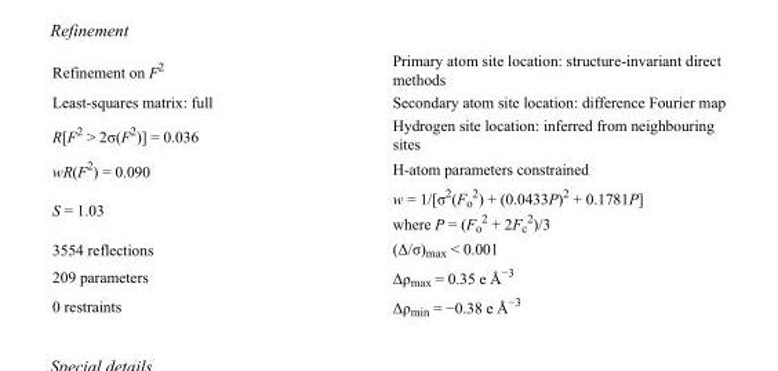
<table><tbody><tr><td>Refinement on F<sup>2</sup></td><td>Primary atom site location: structure-invariant direct methods</td></tr><tr><td>Least-squares matrix: full</td><td>Secondary atom site location: difference Fourier map</td></tr><tr><td>R[F<sup>2</sup> &gt; 2σ(F<sup>2</sup>)] = 0.036</td><td>Hydrogen site location: inferred from neighbouring sites</td></tr><tr><td>wR(F<sup>2</sup>) = 0.090</td><td>H-atom parameters constrained</td></tr><tr><td>S = 1.03</td><td>w = 1/[σ<sup>2</sup>(F<sub>o</sub> <sup>2</sup>) + (0.0433P)<sup>2</sup> + 0.1781P] where P = (F<sub>o</sub> <sup>2</sup> + 2F<sub>c</sub> <sup>2</sup>)/3</td></tr><tr><td>3554 reflections</td><td>(Δ/σ)<sub>max</sub> &lt; 0.001</td></tr><tr><td>209 parameters</td><td>Δρ<sub>max</sub> = 0.35 e Å<sup>−3</sup></td></tr><tr><td>0 restraints</td><td>Δρ<sub>min</sub> = −0.38 e Å<sup>−3</sup></td></tr></tbody></table>